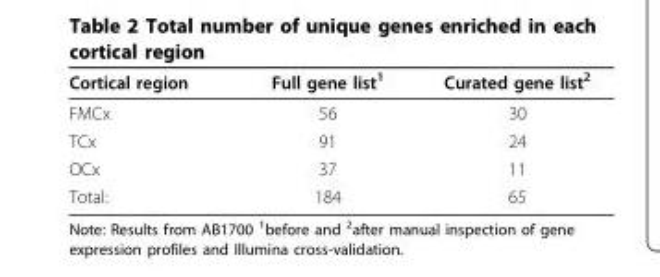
<table><thead><tr><td>Cortical region</td><td>Full gene list<sup>1</sup></td><td>Curated gene list<sup>2</sup></td></tr></thead><tbody><tr><td>FMCx</td><td>56</td><td>30</td></tr><tr><td>TCx</td><td>91</td><td>24</td></tr><tr><td>OCx</td><td>37</td><td>11</td></tr><tr><td>Total:</td><td>184</td><td>65</td></tr></tbody></table>